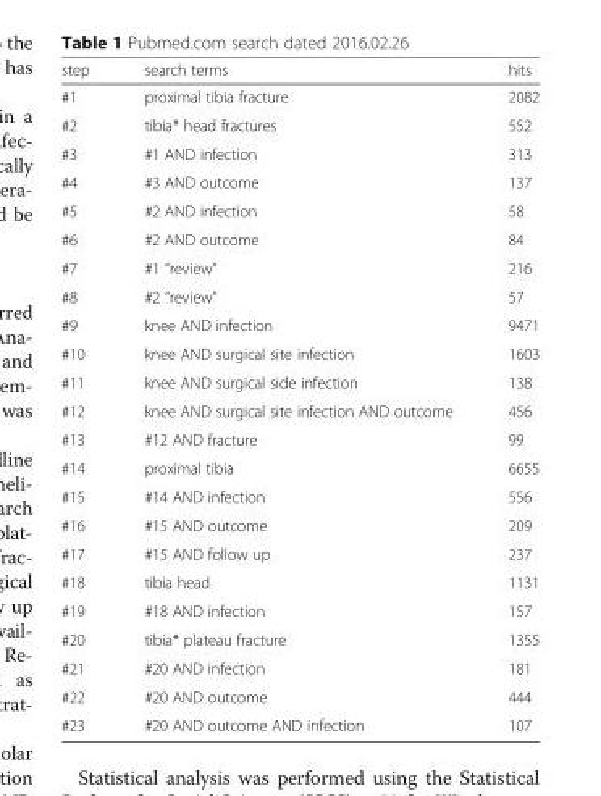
<table><thead><tr><td>step</td><td>search terms</td><td>hits</td></tr></thead><tbody><tr><td>#1</td><td>proximal tibia fracture</td><td>2082</td></tr><tr><td>#2</td><td>tibia* head fractures</td><td>552</td></tr><tr><td>#3</td><td>#1 AND infection</td><td>313</td></tr><tr><td>#4</td><td>#3 AND outcome</td><td>137</td></tr><tr><td>#5</td><td>#2 AND infection</td><td>58</td></tr><tr><td>#6</td><td>#2 AND outcome</td><td>84</td></tr><tr><td>#7</td><td>#1 “review”</td><td>216</td></tr><tr><td>#8</td><td>#2 “review”</td><td>57</td></tr><tr><td>#9</td><td>knee AND infection</td><td>9471</td></tr><tr><td>#10</td><td>knee AND surgical site infection</td><td>1603</td></tr><tr><td>#11</td><td>knee AND surgical side infection</td><td>138</td></tr><tr><td>#12</td><td>knee AND surgical site infection AND outcome</td><td>456</td></tr><tr><td>#13</td><td>#12 AND fracture</td><td>99</td></tr><tr><td>#14</td><td>proximal tibia</td><td>6655</td></tr><tr><td>#15</td><td>#14 AND infection</td><td>556</td></tr><tr><td>#16</td><td>#15 AND outcome</td><td>209</td></tr><tr><td>#17</td><td>#15 AND follow up</td><td>237</td></tr><tr><td>#18</td><td>tibia head</td><td>1131</td></tr><tr><td>#19</td><td>#18 AND infection</td><td>157</td></tr><tr><td>#20</td><td>tibia* plateau fracture</td><td>1355</td></tr><tr><td>#21</td><td>#20 AND infection</td><td>181</td></tr><tr><td>#22</td><td>#20 AND outcome</td><td>444</td></tr><tr><td>#23</td><td>#20 AND outcome AND infection</td><td>107</td></tr></tbody></table>